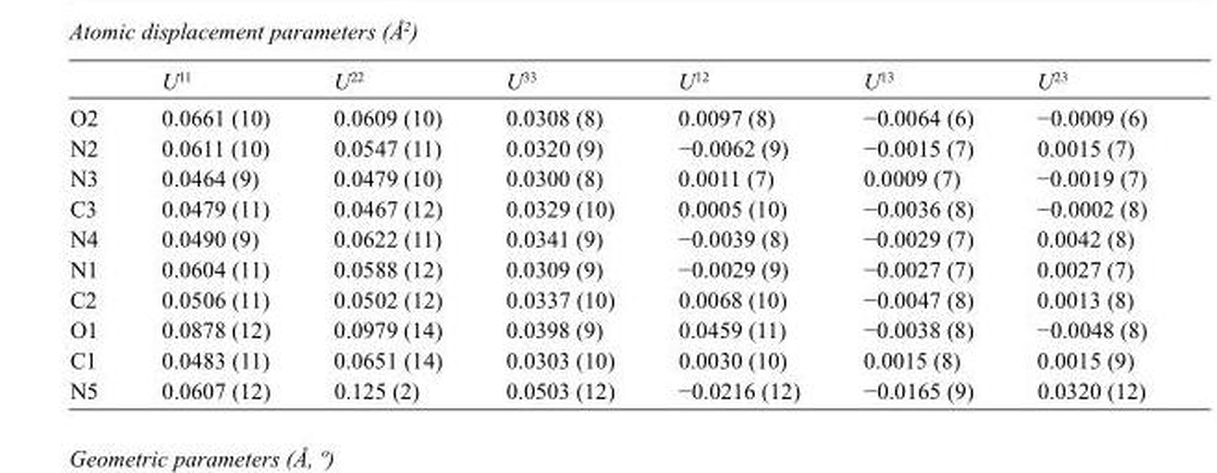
<table><thead><tr><td></td><td>U<sup>11</sup></td><td>U<sup>22</sup></td><td>U<sup>33</sup></td><td>U<sup>12</sup></td><td>U<sup>13</sup></td><td>U<sup>23</sup></td></tr></thead><tbody><tr><td>O2</td><td>0.0661 (10)</td><td>0.0609 (10)</td><td>0.0308 (8)</td><td>0.0097 (8)</td><td>−0.0064 (6)</td><td>−0.0009 (6)</td></tr><tr><td>N2</td><td>0.0611 (10)</td><td>0.0547 (11)</td><td>0.0320 (9)</td><td>−0.0062 (9)</td><td>−0.0015 (7)</td><td>0.0015 (7)</td></tr><tr><td>N3</td><td>0.0464 (9)</td><td>0.0479 (10)</td><td>0.0300 (8)</td><td>0.0011 (7)</td><td>0.0009 (7)</td><td>−0.0019 (7)</td></tr><tr><td>C3</td><td>0.0479 (11)</td><td>0.0467 (12)</td><td>0.0329 (10)</td><td>0.0005 (10)</td><td>−0.0036 (8)</td><td>−0.0002 (8)</td></tr><tr><td>N4</td><td>0.0490 (9)</td><td>0.0622 (11)</td><td>0.0341 (9)</td><td>−0.0039 (8)</td><td>−0.0029 (7)</td><td>0.0042 (8)</td></tr><tr><td>N1</td><td>0.0604 (11)</td><td>0.0588 (12)</td><td>0.0309 (9)</td><td>−0.0029 (9)</td><td>−0.0027 (7)</td><td>0.0027 (7)</td></tr><tr><td>C2</td><td>0.0506 (11)</td><td>0.0502 (12)</td><td>0.0337 (10)</td><td>0.0068 (10)</td><td>−0.0047 (8)</td><td>0.0013 (8)</td></tr><tr><td>O1</td><td>0.0878 (12)</td><td>0.0979 (14)</td><td>0.0398 (9)</td><td>0.0459 (11)</td><td>−0.0038 (8)</td><td>−0.0048 (8)</td></tr><tr><td>C1</td><td>0.0483 (11)</td><td>0.0651 (14)</td><td>0.0303 (10)</td><td>0.0030 (10)</td><td>0.0015 (8)</td><td>0.0015 (9)</td></tr><tr><td>N5</td><td>0.0607 (12)</td><td>0.125 (2)</td><td>0.0503 (12)</td><td>−0.0216 (12)</td><td>−0.0165 (9)</td><td>0.0320 (12)</td></tr></tbody></table>